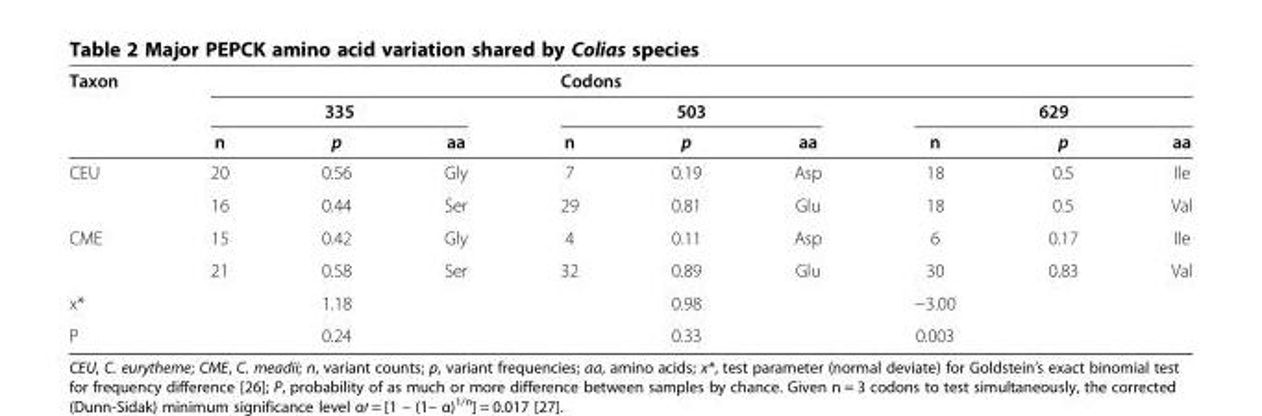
<table><thead><tr><td rowspan="3">Taxon</td><td rowspan="3">n</td><td rowspan="3">335 p</td><td rowspan="3">aa</td><td rowspan="3">Codons n</td><td rowspan="3">503 p</td><td rowspan="3">aa</td><td rowspan="3">n</td><td rowspan="3">629 p</td><td rowspan="3">aa</td></tr><tr></tr><tr></tr></thead><tbody><tr><td rowspan="2">CEU</td><td>20</td><td>0.56</td><td>Gly</td><td>7</td><td>0.19</td><td>Asp</td><td>18</td><td>0.5</td><td>Ile</td></tr><tr><td>16</td><td>0.44</td><td>Ser</td><td>29</td><td>0.81</td><td>Glu</td><td>18</td><td>0.5</td><td>Val</td></tr><tr><td rowspan="2">CME</td><td>15</td><td>0.42</td><td>Gly</td><td>4</td><td>0.11</td><td>Asp</td><td>6</td><td>0.17</td><td>Ile</td></tr><tr><td>21</td><td>0.58</td><td>Ser</td><td>32</td><td>0.89</td><td>Glu</td><td>30</td><td>0.83</td><td>Val</td></tr><tr><td>x*</td><td></td><td>1.18</td><td></td><td></td><td>0.98</td><td></td><td>−3.00</td><td></td><td></td></tr><tr><td>P</td><td></td><td>0.24</td><td></td><td></td><td>0.33</td><td></td><td>0.003</td><td></td><td></td></tr></tbody></table>